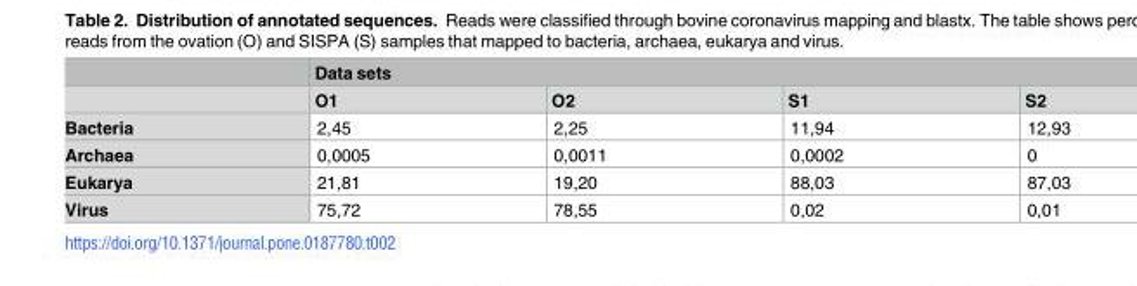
<table><thead><tr><td rowspan="2"></td><td colspan="4">Data sets</td></tr><tr><td>O1</td><td>O2</td><td>S1</td><td>S2</td></tr></thead><tbody><tr><td>Bacteria</td><td>2,45</td><td>2,25</td><td>11,94</td><td>12,93</td></tr><tr><td>Archaea</td><td>0,0005</td><td>0,0011</td><td>0,0002</td><td>0</td></tr><tr><td>Eukarya</td><td>21,81</td><td>19,20</td><td>88,03</td><td>87,03</td></tr><tr><td>Virus</td><td>75,72</td><td>78,55</td><td>0,02</td><td>0,01</td></tr></tbody></table>